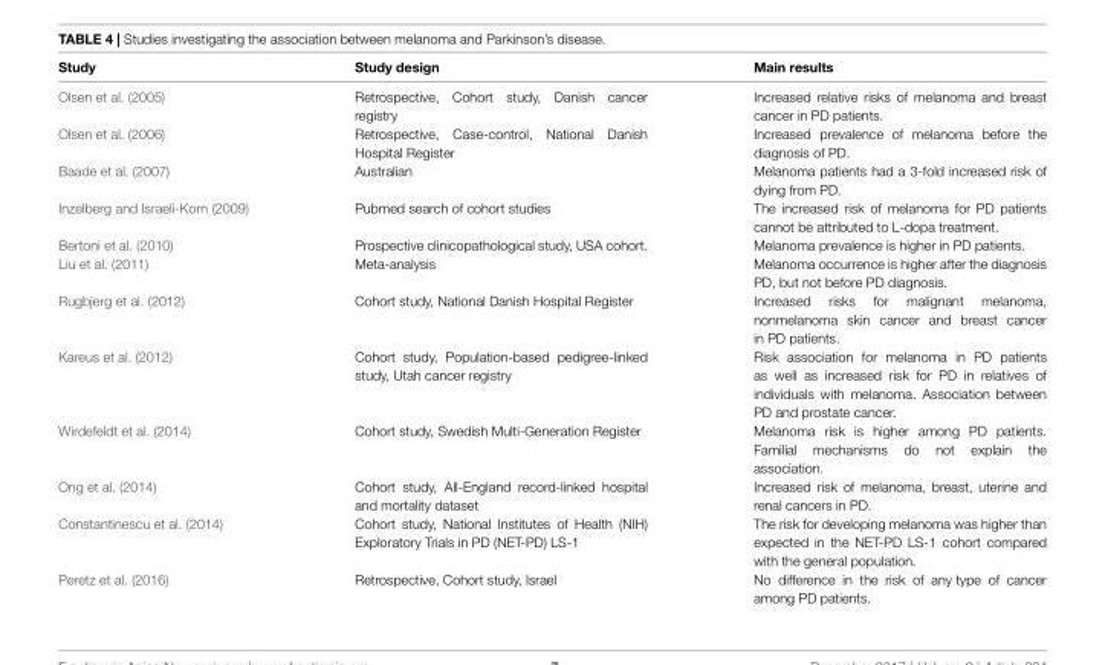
<table><thead><tr><td>Study</td><td>Study design</td><td>Main results</td></tr></thead><tbody><tr><td>Olsen et al. (2005)</td><td>Retrospective, Cohort study, Danish cancer registry</td><td>Increased relative risks of melanoma and breast cancer in PD patients.</td></tr><tr><td>Olsen et al. (2006)</td><td>Retrospective, Case-control, National Danish Hospital Register</td><td>Increased prevalence of melanoma before the diagnosis of PD.</td></tr><tr><td>Baade et al. (2007)</td><td>Australian</td><td>Melanoma patients had a 3-fold increased risk of dying from PD.</td></tr><tr><td>Inzelberg and Israeli-Korn (2009)</td><td>Pubmed search of cohort studies</td><td>The increased risk of melanoma for PD patients cannot be attributed to L-dopa treatment.</td></tr><tr><td>Bertoni et al. (2010)</td><td>Prospective clinicopathological study, USA cohort.</td><td>Melanoma prevalence is higher in PD patients.</td></tr><tr><td>Liu et al. (2011)</td><td>Meta-analysis</td><td>Melanoma occurrence is higher after the diagnosis PD, but not before PD diagnosis.</td></tr><tr><td>Rugbjerg et al. (2012)</td><td>Cohort study, National Danish Hospital Register</td><td>Increased risks for malignant melanoma, nonmelanoma skin cancer and breast cancer in PD patients.</td></tr><tr><td>Kareus et al. (2012)</td><td>Cohort study, Population-based pedigree-linked study, Utah cancer registry</td><td>Risk association for melanoma in PD patients as well as increased risk for PD in relatives of individuals with melanoma. Association between PD and prostate cancer.</td></tr><tr><td>Wirdefeldt et al. (2014)</td><td>Cohort study, Swedish Multi-Generation Register</td><td>Melanoma risk is higher among PD patients. Familial mechanisms do not explain the association.</td></tr><tr><td>Ong et al. (2014)</td><td>Cohort study, All-England record-linked hospital and mortality dataset</td><td>Increased risk of melanoma, breast, uterine and renal cancers in PD.</td></tr><tr><td>Constantinescu et al. (2014)</td><td>Cohort study, National Institutes of Health (NIH) Exploratory Trials in PD (NET-PD) LS-1</td><td>The risk for developing melanoma was higher than expected in the NET-PD LS-1 cohort compared with the general population.</td></tr><tr><td>Peretz et al. (2016)</td><td>Retrospective, Cohort study, Israel</td><td>No difference in the risk of any type of cancer among PD patients.</td></tr></tbody></table>